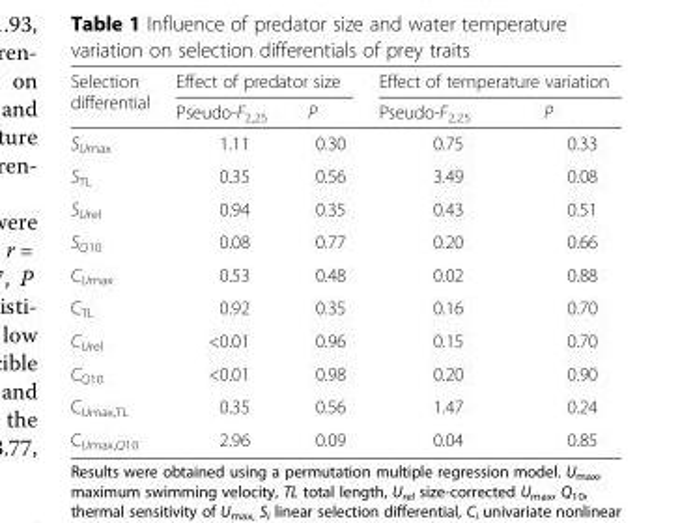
<table><thead><tr><td rowspan="2">Selection differential</td><td colspan="2">Effect of predator size</td><td colspan="2">Effect of temperature variation</td></tr><tr><td>Pseudo-F<sub>2,25</sub></td><td>P</td><td>Pseudo-F<sub>2,25</sub></td><td>P</td></tr></thead><tbody><tr><td>S<sub>Umax</sub></td><td>1.11</td><td>0.30</td><td>0.75</td><td>0.33</td></tr><tr><td>S<sub>TL</sub></td><td>0.35</td><td>0.56</td><td>3.49</td><td>0.08</td></tr><tr><td>S<sub>Urel</sub></td><td>0.94</td><td>0.35</td><td>0.43</td><td>0.51</td></tr><tr><td>S<sub>Q10</sub></td><td>0.08</td><td>0.77</td><td>0.20</td><td>0.66</td></tr><tr><td>C<sub>Umax</sub></td><td>0.53</td><td>0.48</td><td>0.02</td><td>0.88</td></tr><tr><td>C<sub>TL</sub></td><td>0.92</td><td>0.35</td><td>0.16</td><td>0.70</td></tr><tr><td>C<sub>Urel</sub></td><td>&lt;0.01</td><td>0.96</td><td>0.15</td><td>0.70</td></tr><tr><td>C<sub>Q10</sub></td><td>&lt;0.01</td><td>0.98</td><td>0.20</td><td>0.90</td></tr><tr><td>C<sub>Umax,TL</sub></td><td>0.35</td><td>0.56</td><td>1.47</td><td>0.24</td></tr><tr><td>C<sub>Umax,Q10</sub></td><td>2.96</td><td>0.09</td><td>0.04</td><td>0.85</td></tr></tbody></table>